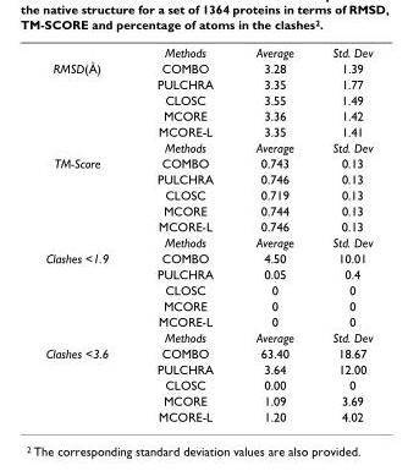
<table><thead><tr><td></td><td>Methods</td><td>Average</td><td>Std. Dev</td></tr></thead><tbody><tr><td rowspan="6">RMSD(Å)</td><td>COMBO</td><td>3.28</td><td>1.39</td></tr><tr><td>PULCHRA</td><td>3.35</td><td>1.77</td></tr><tr><td>CLOSC</td><td>3.55</td><td>1.49</td></tr><tr><td>MCORE</td><td>3.36</td><td>1.42</td></tr><tr><td>MCORE-L</td><td>3.35</td><td>1.41</td></tr><tr><td>Methods</td><td>Average</td><td>Std. Dev</td></tr><tr><td rowspan="6">TM-Score</td><td>COMBO</td><td>0.743</td><td>0.13</td></tr><tr><td>PULCHRA</td><td>0.746</td><td>0.13</td></tr><tr><td>CLOSC</td><td>0.719</td><td>0.13</td></tr><tr><td>MCORE</td><td>0.744</td><td>0.13</td></tr><tr><td>MCORE-L</td><td>0.746</td><td>0.13</td></tr><tr><td>Methods</td><td>Average</td><td>Std. Dev</td></tr><tr><td rowspan="6">Clashes &lt;1.9</td><td>COMBO</td><td>4.50</td><td>10.01</td></tr><tr><td>PULCHRA</td><td>0.05</td><td>0.4</td></tr><tr><td>CLOSC</td><td>0</td><td>0</td></tr><tr><td>MCORE</td><td>0</td><td>0</td></tr><tr><td>MCORE-L</td><td>0</td><td>0</td></tr><tr><td>Methods</td><td>Average</td><td>Std. Dev</td></tr><tr><td rowspan="5">Clashes &lt;3.6</td><td>COMBO</td><td>63.40</td><td>18.67</td></tr><tr><td>PULCHRA</td><td>3.64</td><td>12.00</td></tr><tr><td>CLOSC</td><td>0.00</td><td>0</td></tr><tr><td>MCORE</td><td>1.09</td><td>3.69</td></tr><tr><td>MCORE-L</td><td>1.20</td><td>4.02</td></tr></tbody></table>